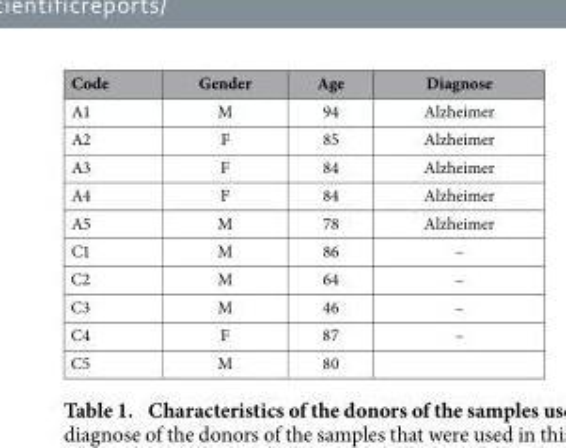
<table><thead><tr><td>Code</td><td>Gender</td><td>Age</td><td>Diagnose</td></tr></thead><tbody><tr><td>A1</td><td>M</td><td>94</td><td>Alzheimer</td></tr><tr><td>A2</td><td>F</td><td>85</td><td>Alzheimer</td></tr><tr><td>A3</td><td>F</td><td>84</td><td>Alzheimer</td></tr><tr><td>A4</td><td>F</td><td>84</td><td>Alzheimer</td></tr><tr><td>A5</td><td>M</td><td>78</td><td>Alzheimer</td></tr><tr><td>C1</td><td>M</td><td>86</td><td>–</td></tr><tr><td>C2</td><td>M</td><td>64</td><td>–</td></tr><tr><td>C3</td><td>M</td><td>46</td><td>–</td></tr><tr><td>C4</td><td>F</td><td>87</td><td>–</td></tr><tr><td>C5</td><td>M</td><td>80</td><td></td></tr></tbody></table>